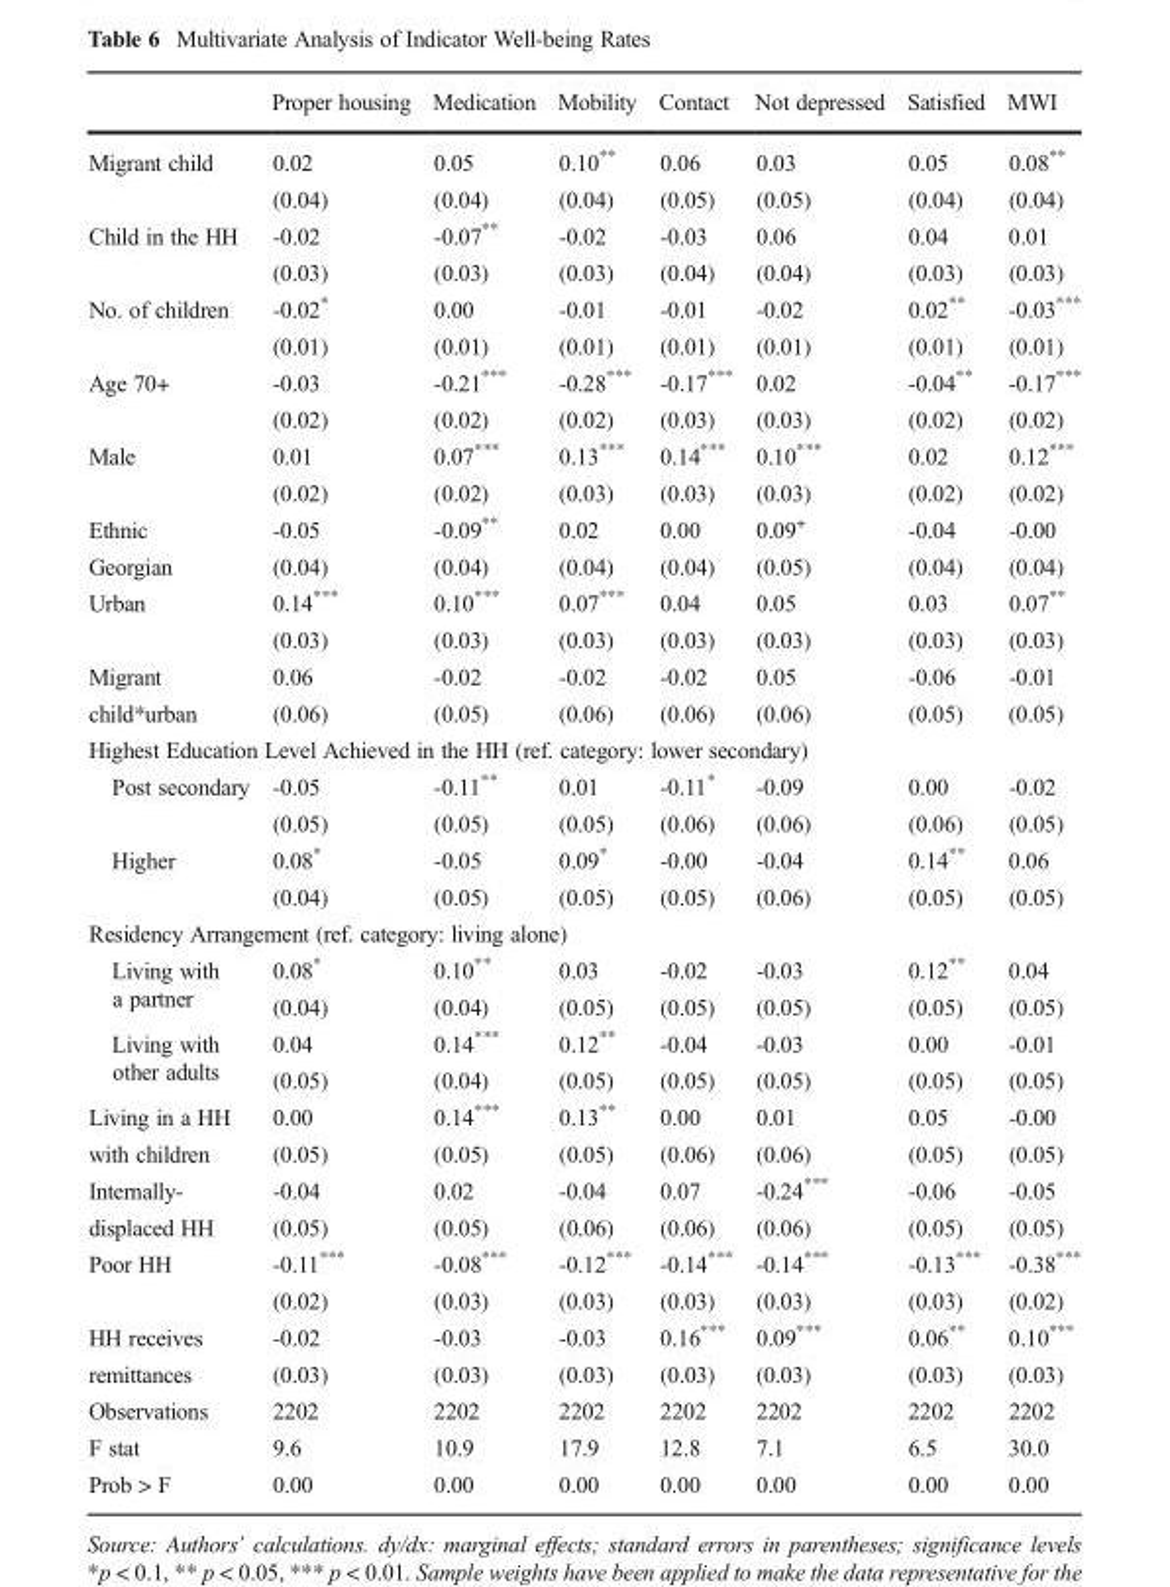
<table><thead><tr><td></td><td>Proper housing</td><td>Medication</td><td>Mobility</td><td>Contact</td><td>Not depressed</td><td>Satisfied</td><td>MWI</td></tr></thead><tbody><tr><td rowspan="2">Migrant child</td><td>0.02</td><td>0.05</td><td>0.10**</td><td>0.06</td><td>0.03</td><td>0.05</td><td>0.08**</td></tr><tr><td>(0.04)</td><td>(0.04)</td><td>(0.04)</td><td>(0.05)</td><td>(0.05)</td><td>(0.04)</td><td>(0.04)</td></tr><tr><td rowspan="2">Child in the HH</td><td>-0.02</td><td>-0.07**</td><td>-0.02</td><td>-0.03</td><td>0.06</td><td>0.04</td><td>0.01</td></tr><tr><td>(0.03)</td><td>(0.03)</td><td>(0.03)</td><td>(0.04)</td><td>(0.04)</td><td>(0.03)</td><td>(0.03)</td></tr><tr><td rowspan="2">No. of children</td><td>-0.02*</td><td>0.00</td><td>-0.01</td><td>-0.01</td><td>-0.02</td><td>0.02**</td><td>-0.03***</td></tr><tr><td>(0.01)</td><td>(0.01)</td><td>(0.01)</td><td>(0.01)</td><td>(0.01)</td><td>(0.01)</td><td>(0.01)</td></tr><tr><td rowspan="2">Age 70+</td><td>-0.03</td><td>-0.21***</td><td>-0.28***</td><td>-0.17***</td><td>0.02</td><td>-0.04**</td><td>-0.17***</td></tr><tr><td>(0.02)</td><td>(0.02)</td><td>(0.02)</td><td>(0.03)</td><td>(0.03)</td><td>(0.02)</td><td>(0.02)</td></tr><tr><td rowspan="2">Male</td><td>0.01</td><td>0.07***</td><td>0.13***</td><td>0.14***</td><td>0.10***</td><td>0.02</td><td>0.12***</td></tr><tr><td>(0.02)</td><td>(0.02)</td><td>(0.03)</td><td>(0.03)</td><td>(0.03)</td><td>(0.02)</td><td>(0.02)</td></tr><tr><td>Ethnic</td><td>-0.05</td><td>-0.09**</td><td>0.02</td><td>0.00</td><td>0.09<sup>+</sup></td><td>-0.04</td><td>-0.00</td></tr><tr><td>Georgian</td><td>(0.04)</td><td>(0.04)</td><td>(0.04)</td><td>(0.04)</td><td>(0.05)</td><td>(0.04)</td><td>(0.04)</td></tr><tr><td rowspan="2">Urban</td><td>0.14***</td><td>0.10***</td><td>0.07***</td><td>0.04</td><td>0.05</td><td>0.03</td><td>0.07**</td></tr><tr><td>(0.03)</td><td>(0.03)</td><td>(0.03)</td><td>(0.03)</td><td>(0.03)</td><td>(0.03)</td><td>(0.03)</td></tr><tr><td>Migrant</td><td>0.06</td><td>-0.02</td><td>-0.02</td><td>-0.02</td><td>0.05</td><td>-0.06</td><td>-0.01</td></tr><tr><td>child*urban</td><td>(0.06)</td><td>(0.05)</td><td>(0.06)</td><td>(0.06)</td><td>(0.06)</td><td>(0.05)</td><td>(0.05)</td></tr><tr><td colspan="8">Highest Education Level Achieved in the HH (ref. category: lower secondary)</td></tr><tr><td rowspan="2">Post secondary</td><td>-0.05</td><td>-0.11**</td><td>0.01</td><td>-0.11*</td><td>-0.09</td><td>0.00</td><td>-0.02</td></tr><tr><td>(0.05)</td><td>(0.05)</td><td>(0.05)</td><td>(0.06)</td><td>(0.06)</td><td>(0.06)</td><td>(0.05)</td></tr><tr><td rowspan="2">Higher</td><td>0.08*</td><td>-0.05</td><td>0.09*</td><td>-0.00</td><td>-0.04</td><td>0.14**</td><td>0.06</td></tr><tr><td>(0.04)</td><td>(0.05)</td><td>(0.05)</td><td>(0.05)</td><td>(0.06)</td><td>(0.05)</td><td>(0.05)</td></tr><tr><td colspan="8">Residency Arrangement (ref. category: living alone)</td></tr><tr><td rowspan="2">Living with a partner</td><td>0.08*</td><td>0.10**</td><td>0.03</td><td>-0.02</td><td>-0.03</td><td>0.12**</td><td>0.04</td></tr><tr><td>(0.04)</td><td>(0.04)</td><td>(0.05)</td><td>(0.05)</td><td>(0.05)</td><td>(0.05)</td><td>(0.05)</td></tr><tr><td rowspan="2">Living with other adults</td><td>0.04</td><td>0.14***</td><td>0.12**</td><td>-0.04</td><td>-0.03</td><td>0.00</td><td>-0.01</td></tr><tr><td>(0.05)</td><td>(0.04)</td><td>(0.05)</td><td>(0.05)</td><td>(0.05)</td><td>(0.05)</td><td>(0.05)</td></tr><tr><td>Living in a HH</td><td>0.00</td><td>0.14***</td><td>0.13**</td><td>0.00</td><td>0.01</td><td>0.05</td><td>-0.00</td></tr><tr><td>with children</td><td>(0.05)</td><td>(0.05)</td><td>(0.05)</td><td>(0.06)</td><td>(0.06)</td><td>(0.05)</td><td>(0.05)</td></tr><tr><td>Internally-</td><td>-0.04</td><td>0.02</td><td>-0.04</td><td>0.07</td><td>-0.24***</td><td>-0.06</td><td>-0.05</td></tr><tr><td>displaced HH</td><td>(0.05)</td><td>(0.05)</td><td>(0.06)</td><td>(0.06)</td><td>(0.06)</td><td>(0.05)</td><td>(0.05)</td></tr><tr><td rowspan="2">Poor HH</td><td>-0.11***</td><td>-0.08***</td><td>-0.12***</td><td>-0.14***</td><td>-0.14***</td><td>-0.13***</td><td>-0.38***</td></tr><tr><td>(0.02)</td><td>(0.03)</td><td>(0.03)</td><td>(0.03)</td><td>(0.03)</td><td>(0.03)</td><td>(0.02)</td></tr><tr><td>HH receives</td><td>-0.02</td><td>-0.03</td><td>-0.03</td><td>0.16***</td><td>0.09***</td><td>0.06**</td><td>0.10***</td></tr><tr><td>remittances</td><td>(0.03)</td><td>(0.03)</td><td>(0.03)</td><td>(0.03)</td><td>(0.03)</td><td>(0.03)</td><td>(0.03)</td></tr><tr><td>Observations</td><td>2202</td><td>2202</td><td>2202</td><td>2202</td><td>2202</td><td>2202</td><td>2202</td></tr><tr><td>F stat</td><td>9.6</td><td>10.9</td><td>17.9</td><td>12.8</td><td>7.1</td><td>6.5</td><td>30.0</td></tr><tr><td>Prob &gt; F</td><td>0.00</td><td>0.00</td><td>0.00</td><td>0.00</td><td>0.00</td><td>0.00</td><td>0.00</td></tr></tbody></table>